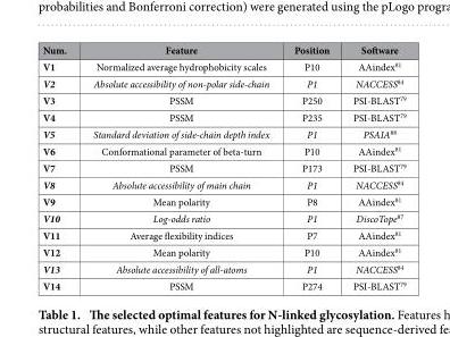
<table><thead><tr><td>Num.</td><td>Feature</td><td>Position</td><td>Software</td></tr></thead><tbody><tr><td>V1</td><td>Normalized average hydrophobicity scales</td><td>P10</td><td>AAindex<sup>81</sup></td></tr><tr><td>V2</td><td>Absolute accessibility of non-polar side-chain</td><td>P1</td><td>NACCESS<sup>84</sup></td></tr><tr><td>V3</td><td>PSSM</td><td>P250</td><td>PSI-BLAST<sup>79</sup></td></tr><tr><td>V4</td><td>PSSM</td><td>P235</td><td>PSI-BLAST<sup>79</sup></td></tr><tr><td>V5</td><td>Standard deviation of side-chain depth index</td><td>P1</td><td>PSAIA<sup>88</sup></td></tr><tr><td>V6</td><td>Conformational parameter of beta-turn</td><td>P10</td><td>AAindex<sup>81</sup></td></tr><tr><td>V7</td><td>PSSM</td><td>P173</td><td>PSI-BLAST<sup>79</sup></td></tr><tr><td>V8</td><td>Absolute accessibility of main chain</td><td>P1</td><td>NACCESS<sup>84</sup></td></tr><tr><td>V9</td><td>Mean polarity</td><td>P8</td><td>AAindex<sup>81</sup></td></tr><tr><td>V10</td><td>Log-odds ratio</td><td>P1</td><td>DiscoTope<sup>87</sup></td></tr><tr><td>V11</td><td>Average flexibility indices</td><td>P7</td><td>AAindex<sup>81</sup></td></tr><tr><td>V12</td><td>Mean polarity</td><td>P10</td><td>AAindex<sup>81</sup></td></tr><tr><td>V13</td><td>Absolute accessibility of all-atoms</td><td>P1</td><td>NACCESS<sup>84</sup></td></tr><tr><td>V14</td><td>PSSM</td><td>P274</td><td>PSI-BLAST<sup>79</sup></td></tr></tbody></table>